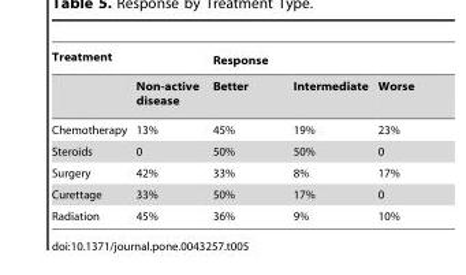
<table><thead><tr><td>Treatment</td><td></td><td>Response</td><td></td><td></td></tr></thead><tbody><tr><td></td><td>Non-active disease</td><td>Better</td><td>Intermediate</td><td>Worse</td></tr><tr><td>Chemotherapy</td><td>13%</td><td>45%</td><td>19%</td><td>23%</td></tr><tr><td>Steroids</td><td>0</td><td>50%</td><td>50%</td><td>0</td></tr><tr><td>Surgery</td><td>42%</td><td>33%</td><td>8%</td><td>17%</td></tr><tr><td>Curettage</td><td>33%</td><td>50%</td><td>17%</td><td>0</td></tr><tr><td>Radiation</td><td>45%</td><td>36%</td><td>9%</td><td>10%</td></tr></tbody></table>